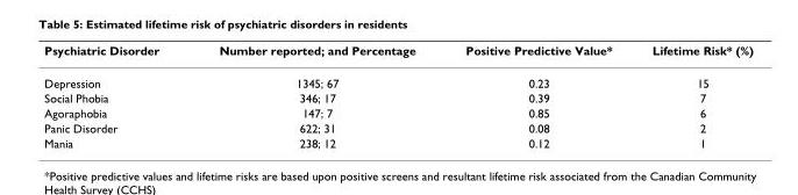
<table><thead><tr><td>Psychiatric Disorder</td><td>Number reported; and Percentage</td><td>Positive Predictive Value*</td><td>Lifetime Risk* (%)</td></tr></thead><tbody><tr><td>Depression</td><td>1345; 67</td><td>0.23</td><td>15</td></tr><tr><td>Social Phobia</td><td>346; 17</td><td>0.39</td><td>7</td></tr><tr><td>Agoraphobia</td><td>147; 7</td><td>0.85</td><td>6</td></tr><tr><td>Panic Disorder</td><td>622; 31</td><td>0.08</td><td>2</td></tr><tr><td>Mania</td><td>238; 12</td><td>0.12</td><td>1</td></tr></tbody></table>